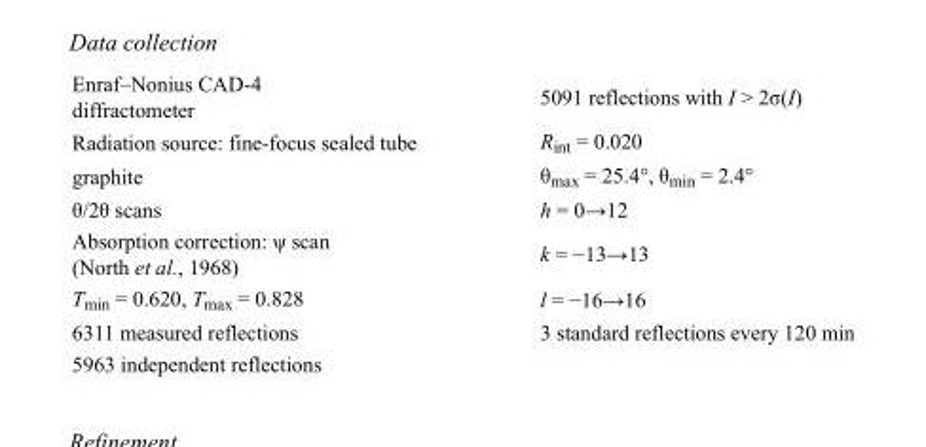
<table><tbody><tr><td>Enraf–Nonius CAD-4 diffractometer</td><td>5091 reflections with I &gt; 2σ(I)</td></tr><tr><td>Radiation source: fine-focus sealed tube</td><td>R<sub>int</sub> = 0.020</td></tr><tr><td>graphite</td><td>θ<sub>max</sub> = 25.4°, θ<sub>min</sub> = 2.4°</td></tr><tr><td>θ/2θ scans</td><td>h = 0→12</td></tr><tr><td>Absorption correction: ψ scan (North et al., 1968)</td><td>k = −13→13</td></tr><tr><td>T<sub>min</sub> = 0.620, T<sub>max</sub> = 0.828</td><td>l = −16→16</td></tr><tr><td>6311 measured reflections</td><td>3 standard reflections every 120 min</td></tr><tr><td>5963 independent reflections</td><td></td></tr></tbody></table>